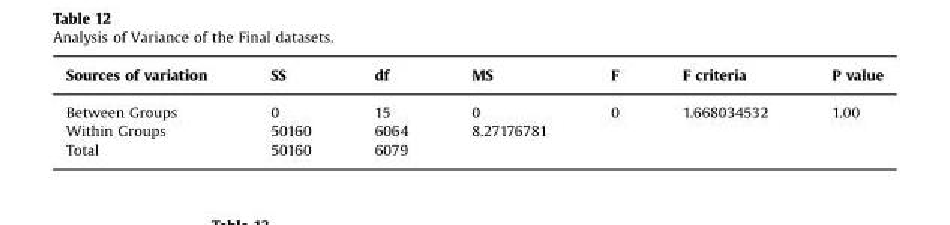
<table><thead><tr><td>Sources of variation</td><td>SS</td><td>df</td><td>MS</td><td>F</td><td>F criteria</td><td>P value</td></tr></thead><tbody><tr><td>Between Groups</td><td>0</td><td>15</td><td>0</td><td>0</td><td>1.668034532</td><td>1.00</td></tr><tr><td>Within Groups</td><td>50160</td><td>6064</td><td>8.27176781</td><td></td><td></td><td></td></tr><tr><td>Total</td><td>50160</td><td>6079</td><td></td><td></td><td></td><td></td></tr></tbody></table>